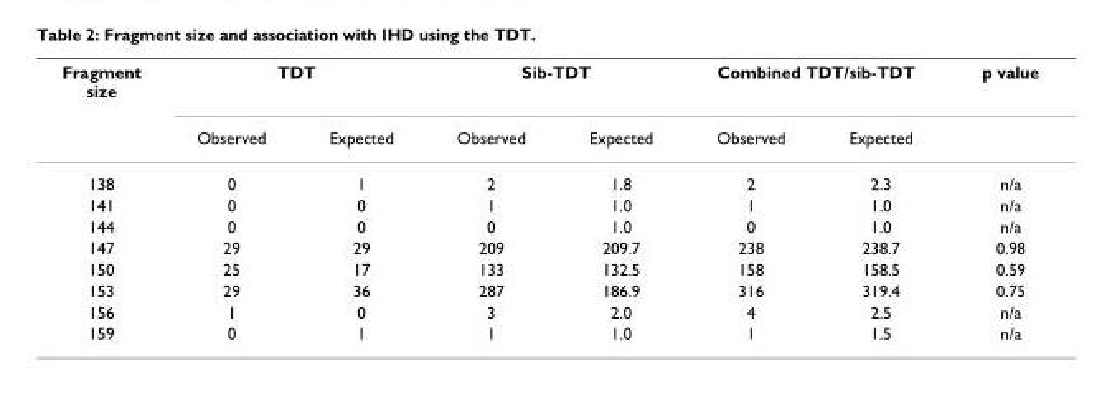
<table><thead><tr><td rowspan="2">Fragment size</td><td colspan="2">TDT</td><td colspan="2">Sib-TDT</td><td colspan="2">Combined TDT/sib-TDT</td><td rowspan="2">p value</td></tr><tr><td>Observed</td><td>Expected</td><td>Observed</td><td>Expected</td><td>Observed</td><td>Expected</td></tr></thead><tbody><tr><td>138</td><td>0</td><td>1</td><td>2</td><td>1.8</td><td>2</td><td>2.3</td><td>n/a</td></tr><tr><td>141</td><td>0</td><td>0</td><td>1</td><td>1.0</td><td>1</td><td>1.0</td><td>n/a</td></tr><tr><td>144</td><td>0</td><td>0</td><td>0</td><td>1.0</td><td>0</td><td>1.0</td><td>n/a</td></tr><tr><td>147</td><td>29</td><td>29</td><td>209</td><td>209.7</td><td>238</td><td>238.7</td><td>0.98</td></tr><tr><td>150</td><td>25</td><td>17</td><td>133</td><td>132.5</td><td>158</td><td>158.5</td><td>0.59</td></tr><tr><td>153</td><td>29</td><td>36</td><td>287</td><td>186.9</td><td>316</td><td>319.4</td><td>0.75</td></tr><tr><td>156</td><td>1</td><td>0</td><td>3</td><td>2.0</td><td>4</td><td>2.5</td><td>n/a</td></tr><tr><td>159</td><td>0</td><td>1</td><td>1</td><td>1.0</td><td>1</td><td>1.5</td><td>n/a</td></tr></tbody></table>